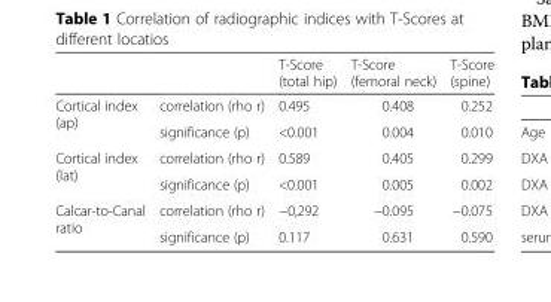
<table><thead><tr><td></td><td></td><td>T-Score (total hip)</td><td>T-Score (femoral neck)</td><td>T-Score (spine)</td></tr></thead><tbody><tr><td rowspan="2">Cortical index (ap)</td><td>correlation (rho r)</td><td>0.495</td><td>0.408</td><td>0.252</td></tr><tr><td>significance (p)</td><td>&lt;0.001</td><td>0.004</td><td>0.010</td></tr><tr><td rowspan="2">Cortical index (lat)</td><td>correlation (rho r)</td><td>0.589</td><td>0.405</td><td>0.299</td></tr><tr><td>significance (p)</td><td>&lt;0.001</td><td>0.005</td><td>0.002</td></tr><tr><td rowspan="2">Calcar-to-Canal ratio</td><td>correlation (rho r)</td><td>−0,292</td><td>−0.095</td><td>−0.075</td></tr><tr><td>significance (p)</td><td>0.117</td><td>0.631</td><td>0.590</td></tr></tbody></table>